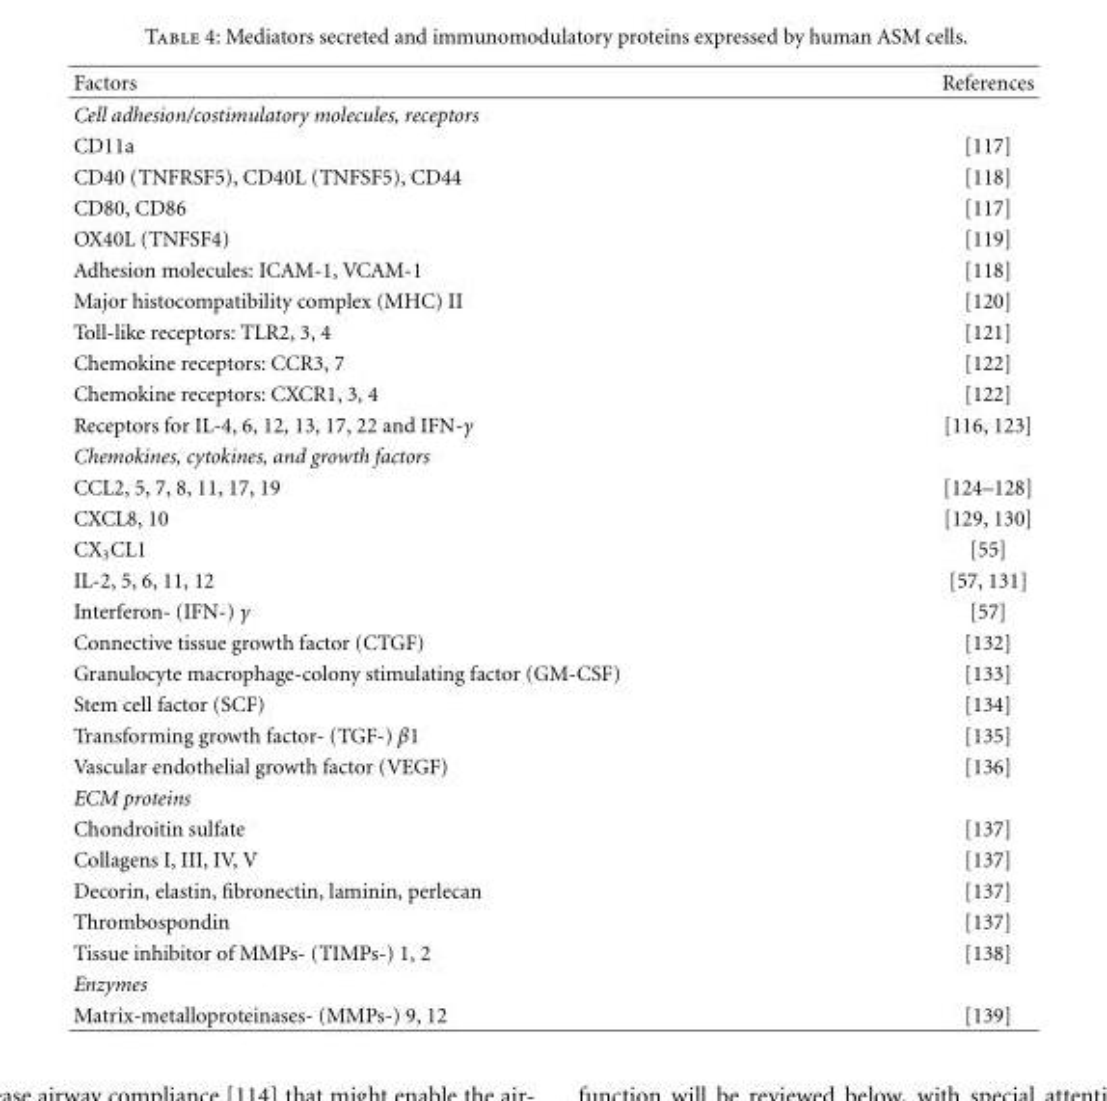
<table><thead><tr><td>Factors</td><td>References</td></tr></thead><tbody><tr><td colspan="2">Cell adhesion/costimulatory molecules, receptors</td></tr><tr><td>CD11a</td><td>[117]</td></tr><tr><td>CD40 (TNFRSF5), CD40L (TNFSF5), CD44</td><td>[118]</td></tr><tr><td>CD80, CD86</td><td>[117]</td></tr><tr><td>OX40L (TNFSF4)</td><td>[119]</td></tr><tr><td>Adhesion molecules: ICAM-1, VCAM-1</td><td>[118]</td></tr><tr><td>Major histocompatibility complex (MHC) II</td><td>[120]</td></tr><tr><td>Toll-like receptors: TLR2, 3, 4</td><td>[121]</td></tr><tr><td>Chemokine receptors: CCR3, 7</td><td>[122]</td></tr><tr><td>Chemokine receptors: CXCR1, 3, 4</td><td>[122]</td></tr><tr><td>Receptors for IL-4, 6, 12, 13, 17, 22 and IFN-γ</td><td>[116, 123]</td></tr><tr><td colspan="2">Chemokines, cytokines, and growth factors</td></tr><tr><td>CCL2, 5, 7, 8, 11, 17, 19</td><td>[124–128]</td></tr><tr><td>CXCL8, 10</td><td>[129, 130]</td></tr><tr><td>CX<sub>3</sub>CL1</td><td>[55]</td></tr><tr><td>IL-2, 5, 6, 11, 12</td><td>[57, 131]</td></tr><tr><td>Interferon- (IFN-) γ</td><td>[57]</td></tr><tr><td>Connective tissue growth factor (CTGF)</td><td>[132]</td></tr><tr><td>Granulocyte macrophage-colony stimulating factor (GM-CSF)</td><td>[133]</td></tr><tr><td>Stem cell factor (SCF)</td><td>[134]</td></tr><tr><td>Transforming growth factor- (TGF-) β1</td><td>[135]</td></tr><tr><td>Vascular endothelial growth factor (VEGF)</td><td>[136]</td></tr><tr><td colspan="2">ECM proteins</td></tr><tr><td>Chondroitin sulfate</td><td>[137]</td></tr><tr><td>Collagens I, III, IV, V</td><td>[137]</td></tr><tr><td>Decorin, elastin, fibronectin, laminin, perlecan</td><td>[137]</td></tr><tr><td>Thrombospondin</td><td>[137]</td></tr><tr><td>Tissue inhibitor of MMPs- (TIMPs-) 1, 2</td><td>[138]</td></tr><tr><td colspan="2">Enzymes</td></tr><tr><td>Matrix-metalloproteinases- (MMPs-) 9, 12</td><td>[139]</td></tr></tbody></table>